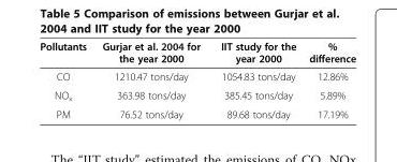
<table><thead><tr><td>Pollutants</td><td>Gurjar et al. <sup>2004</sup> for the year 2000</td><td>IIT study for the year 2000</td><td>% difference</td></tr></thead><tbody><tr><td>CO</td><td>1210.47 tons/day</td><td>1054.83 tons/day</td><td>12.86%</td></tr><tr><td>NO<sub>x</sub></td><td>363.98 tons/day</td><td>385.45 tons/day</td><td>5.89%</td></tr><tr><td>PM</td><td>76.52 tons/day</td><td>89.68 tons/day</td><td>17.19%</td></tr></tbody></table>